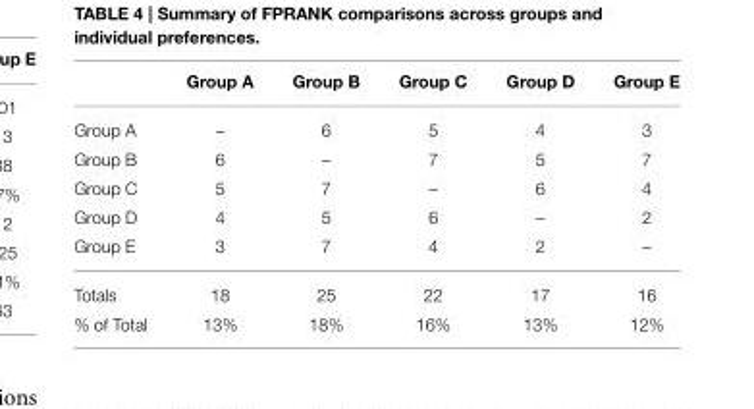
<table><thead><tr><td></td><td>Group A</td><td>Group B</td><td>Group C</td><td>Group D</td><td>Group E</td></tr></thead><tbody><tr><td>Group A</td><td>–</td><td>6</td><td>5</td><td>4</td><td>3</td></tr><tr><td>Group B</td><td>6</td><td>–</td><td>7</td><td>5</td><td>7</td></tr><tr><td>Group C</td><td>5</td><td>7</td><td>–</td><td>6</td><td>4</td></tr><tr><td>Group D</td><td>4</td><td>5</td><td>6</td><td>–</td><td>2</td></tr><tr><td>Group E</td><td>3</td><td>7</td><td>4</td><td>2</td><td>–</td></tr><tr><td>Totals</td><td>18</td><td>25</td><td>22</td><td>17</td><td>16</td></tr><tr><td>% of Total</td><td>13%</td><td>18%</td><td>16%</td><td>13%</td><td>12%</td></tr></tbody></table>